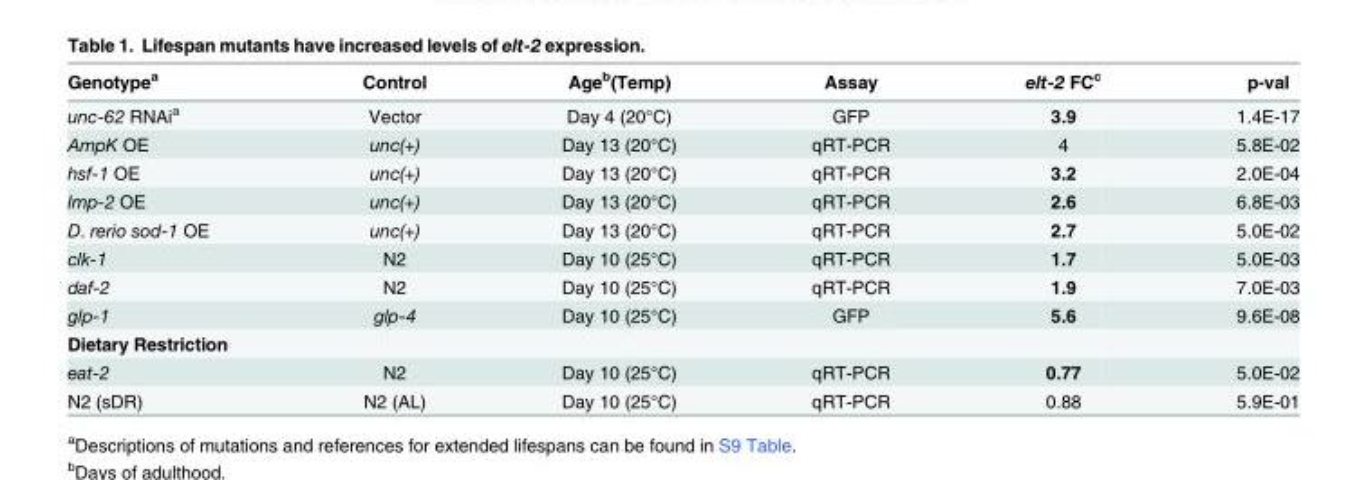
<table><thead><tr><td>Genotype<sup>a</sup></td><td>Control</td><td>Age<sup>b</sup>(Temp)</td><td>Assay</td><td>elt-2 FC<sup>c</sup></td><td>p-val</td></tr></thead><tbody><tr><td>unc-62 RNAi<sup>a</sup></td><td>Vector</td><td>Day 4 (20°C)</td><td>GFP</td><td>3.9</td><td>1.4E-17</td></tr><tr><td>AmpK OE</td><td>unc(+)</td><td>Day 13 (20°C)</td><td>qRT-PCR</td><td>4</td><td>5.8E-02</td></tr><tr><td>hsf-1 OE</td><td>unc(+)</td><td>Day 13 (20°C)</td><td>qRT-PCR</td><td>3.2</td><td>2.0E-04</td></tr><tr><td>lmp-2 OE</td><td>unc(+)</td><td>Day 13 (20°C)</td><td>qRT-PCR</td><td>2.6</td><td>6.8E-03</td></tr><tr><td>D. rerio sod-1 OE</td><td>unc(+)</td><td>Day 13 (20°C)</td><td>qRT-PCR</td><td>2.7</td><td>5.0E-02</td></tr><tr><td>clk-1</td><td>N2</td><td>Day 10 (25°C)</td><td>qRT-PCR</td><td>1.7</td><td>5.0E-03</td></tr><tr><td>daf-2</td><td>N2</td><td>Day 10 (25°C)</td><td>qRT-PCR</td><td>1.9</td><td>7.0E-03</td></tr><tr><td>glp-1</td><td>glp-4</td><td>Day 10 (25°C)</td><td>GFP</td><td>5.6</td><td>9.6E-08</td></tr><tr><td colspan="6">Dietary Restriction</td></tr><tr><td>eat-2</td><td>N2</td><td>Day 10 (25°C)</td><td>qRT-PCR</td><td>0.77</td><td>5.0E-02</td></tr><tr><td>N2 (sDR)</td><td>N2 (AL)</td><td>Day 10 (25°C)</td><td>qRT-PCR</td><td>0.88</td><td>5.9E-01</td></tr></tbody></table>